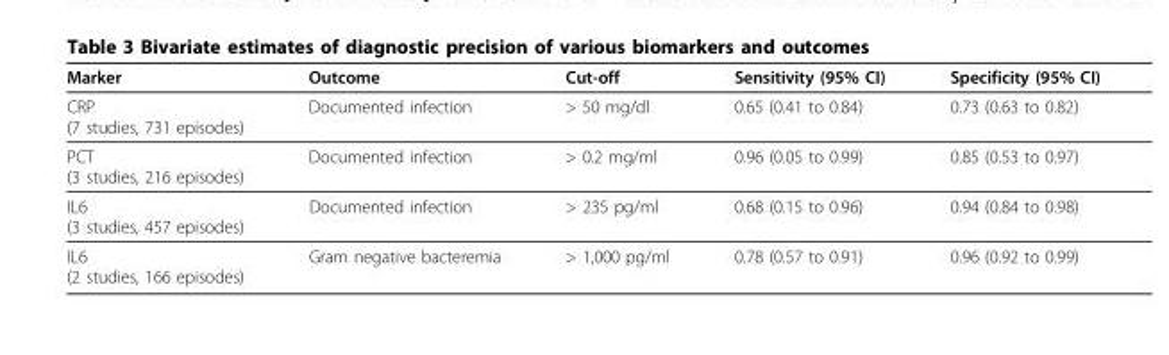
<table><thead><tr><td>Marker</td><td>Outcome</td><td>Cut-off</td><td>Sensitivity (95% CI)</td><td>Specificity (95% CI)</td></tr></thead><tbody><tr><td>CRP (7 studies, 731 episodes)</td><td>Documented infection</td><td>&gt; 50 mg/dl</td><td>0.65 (0.41 to 0.84)</td><td>0.73 (0.63 to 0.82)</td></tr><tr><td>PCT (3 studies, 216 episodes)</td><td>Documented infection</td><td>&gt; 0.2 mg/ml</td><td>0.96 (0.05 to 0.99)</td><td>0.85 (0.53 to 0.97)</td></tr><tr><td>IL6 (3 studies, 457 episodes)</td><td>Documented infection</td><td>&gt; 235 pg/ml</td><td>0.68 (0.15 to 0.96)</td><td>0.94 (0.84 to 0.98)</td></tr><tr><td>IL6 (2 studies, 166 episodes)</td><td>Gram negative bacteremia</td><td>&gt; 1,000 pg/ml</td><td>0.78 (0.57 to 0.91)</td><td>0.96 (0.92 to 0.99)</td></tr></tbody></table>